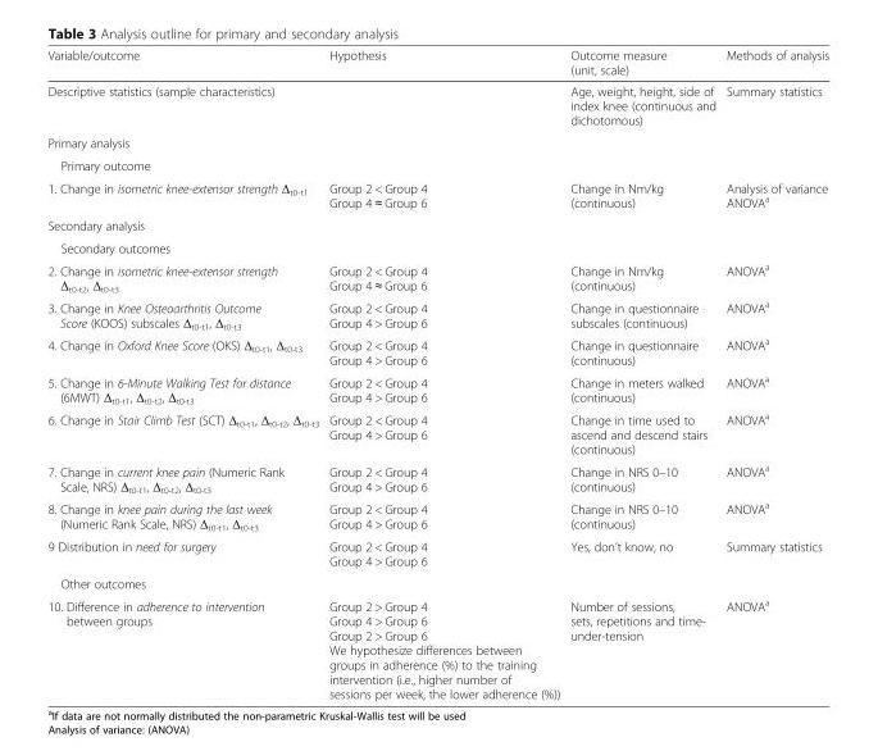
<table><thead><tr><td>Variable/outcome</td><td>Hypothesis</td><td>Outcome measure (unit, scale)</td><td>Methods of analysis</td></tr></thead><tbody><tr><td>Descriptive statistics (sample characteristics)</td><td></td><td>Age, weight, height, side of index knee (continuous and dichotomous)</td><td>Summary statistics</td></tr><tr><td colspan="4">Primary analysis</td></tr><tr><td colspan="4">Primary outcome</td></tr><tr><td>1. Change in isometric knee-extensor strength Δ<sub>t0-t1</sub></td><td>Group 2 &lt; Group 4 Group 4 ≈ Group 6</td><td>Change in Nm/kg (continuous)</td><td>Analysis of variance ANOVA<sup>a</sup></td></tr><tr><td colspan="4">Secondary analysis</td></tr><tr><td colspan="4">Secondary outcomes</td></tr><tr><td>2. Change in isometric knee-extensor strength Δ<sub>t0-t2</sub>, Δ<sub>t0-t3</sub></td><td>Group 2 &lt; Group 4 Group 4 ≈ Group 6</td><td>Change in Nm/kg (continuous)</td><td>ANOVA<sup>a</sup></td></tr><tr><td>3. Change in Knee Osteoarthritis Outcome Score (KOOS) subscales Δ<sub>t0-t1</sub>, Δ<sub>t0-t3</sub></td><td>Group 2 &lt; Group 4 Group 4 &gt; Group 6</td><td>Change in questionnaire subscales (continuous)</td><td>ANOVA<sup>a</sup></td></tr><tr><td>4. Change in Oxford Knee Score (OKS) Δ<sub>t0-t1</sub>, Δ<sub>t0-t3</sub></td><td>Group 2 &lt; Group 4 Group 4 &gt; Group 6</td><td>Change in questionnaire (continuous)</td><td>ANOVA<sup>a</sup></td></tr><tr><td>5. Change in 6-Minute Walking Test for distance (6MWT) Δ<sub>t0-t1</sub>, Δ<sub>t0-t2</sub>, Δ<sub>t0-t3</sub></td><td>Group 2 &lt; Group 4 Group 4 &gt; Group 6</td><td>Change in meters walked (continuous)</td><td>ANOVA<sup>a</sup></td></tr><tr><td>6. Change in Stair Climb Test (SCT) Δ<sub>t0-t1</sub>, Δ<sub>t0-t2</sub>, Δ<sub>t0-t3</sub></td><td>Group 2 &lt; Group 4 Group 4 &gt; Group 6</td><td>Change in time used to ascend and descend stairs (continuous)</td><td>ANOVA<sup>a</sup></td></tr><tr><td>7. Change in current knee pain (Numeric Rank Scale, NRS) Δ<sub>t0-t1</sub>, Δ<sub>t0-t2</sub>, Δ<sub>t0-t3</sub></td><td>Group 2 &lt; Group 4 Group 4 &gt; Group 6</td><td>Change in NRS 0–10 (continuous)</td><td>ANOVA<sup>a</sup></td></tr><tr><td>8. Change in knee pain during the last week (Numeric Rank Scale, NRS) Δ<sub>t0-t1</sub>, Δ<sub>t0-t3</sub></td><td>Group 2 &lt; Group 4 Group 4 &gt; Group 6</td><td>Change in NRS 0–10 (continuous)</td><td>ANOVA<sup>a</sup></td></tr><tr><td>9 Distribution in need for surgery</td><td>Group 2 &lt; Group 4 Group 4 &gt; Group 6</td><td>Yes, don’t know, no</td><td>Summary statistics</td></tr><tr><td colspan="4">Other outcomes</td></tr><tr><td>10. Difference in adherence to intervention between groups</td><td>Group 2 &gt; Group 4 Group 4 &gt; Group 6 Group 2 &gt; Group 6 We hypothesize differences between groups in adherence (%) to the training intervention (i.e., higher number of sessions per week, the lower adherence (%))</td><td>Number of sessions, sets, repetitions and time- under-tension</td><td>ANOVA<sup>a</sup></td></tr></tbody></table>